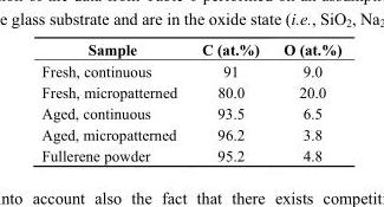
<table><thead><tr><td>Sample</td><td>C (at.%)</td><td>O (at.%)</td></tr></thead><tbody><tr><td>Fresh, continuous</td><td>91</td><td>9.0</td></tr><tr><td>Fresh, micropatterned</td><td>80.0</td><td>20.0</td></tr><tr><td>Aged, continuous</td><td>93.5</td><td>6.5</td></tr><tr><td>Aged, micropatterned</td><td>96.2</td><td>3.8</td></tr><tr><td>Fullerene powder</td><td>95.2</td><td>4.8</td></tr></tbody></table>